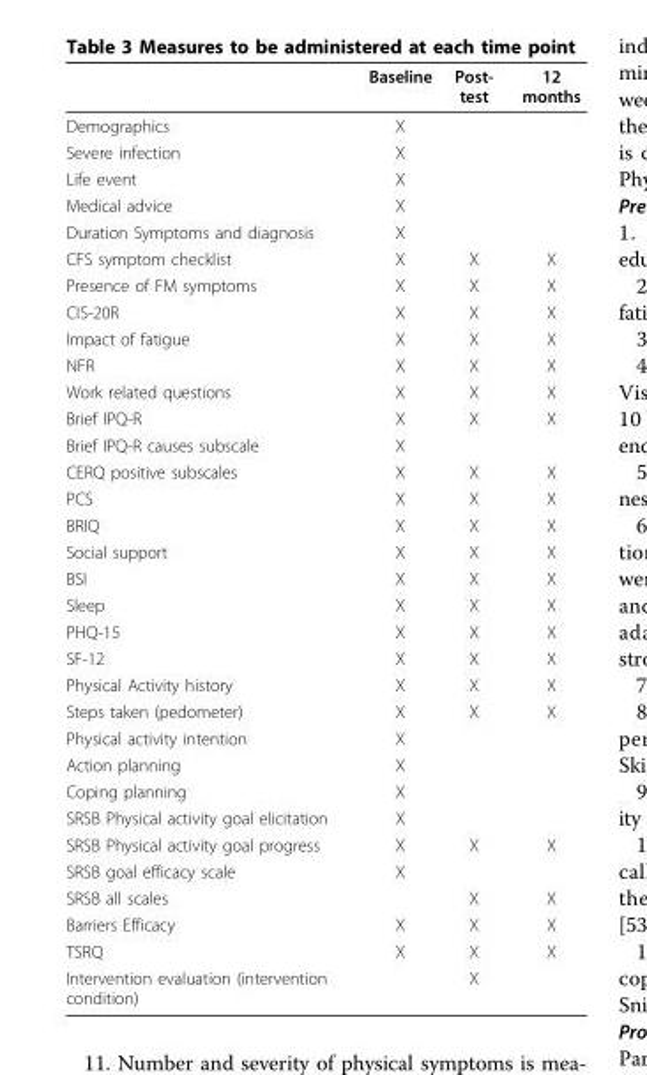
<table><thead><tr><td></td><td>Baseline</td><td>Post- test</td><td>12 months</td></tr></thead><tbody><tr><td>Demographics</td><td>X</td><td></td><td></td></tr><tr><td>Severe infection</td><td>X</td><td></td><td></td></tr><tr><td>Life event</td><td>X</td><td></td><td></td></tr><tr><td>Medical advice</td><td>X</td><td></td><td></td></tr><tr><td>Duration Symptoms and diagnosis</td><td>X</td><td></td><td></td></tr><tr><td>CFS symptom checklist</td><td>X</td><td>X</td><td>X</td></tr><tr><td>Presence of FM symptoms</td><td>X</td><td>X</td><td>X</td></tr><tr><td>CIS-20R</td><td>X</td><td>X</td><td>X</td></tr><tr><td>Impact of fatigue</td><td>X</td><td>X</td><td>X</td></tr><tr><td>NFR</td><td>X</td><td>X</td><td>X</td></tr><tr><td>Work related questions</td><td>X</td><td>X</td><td>X</td></tr><tr><td>Brief IPQ-R</td><td>X</td><td>X</td><td>X</td></tr><tr><td>Brief IPQ-R causes subscale</td><td>X</td><td></td><td></td></tr><tr><td>CERQ positive subscales</td><td>X</td><td>X</td><td>X</td></tr><tr><td>PCS</td><td>X</td><td>X</td><td>X</td></tr><tr><td>BRIQ</td><td>X</td><td>X</td><td>X</td></tr><tr><td>Social support</td><td>X</td><td>X</td><td>X</td></tr><tr><td>BSI</td><td>X</td><td>X</td><td>X</td></tr><tr><td>Sleep</td><td>X</td><td>X</td><td>X</td></tr><tr><td>PHQ-15</td><td>X</td><td>X</td><td>X</td></tr><tr><td>SF-12</td><td>X</td><td>X</td><td>X</td></tr><tr><td>Physical Activity history</td><td>X</td><td>X</td><td>X</td></tr><tr><td>Steps taken (pedometer)</td><td>X</td><td>X</td><td>X</td></tr><tr><td>Physical activity intention</td><td>X</td><td></td><td></td></tr><tr><td>Action planning</td><td>X</td><td></td><td></td></tr><tr><td>Coping planning</td><td>X</td><td></td><td></td></tr><tr><td>SRSB Physical activity goal elicitation</td><td>X</td><td></td><td></td></tr><tr><td>SRSB Physical activity goal progress</td><td>X</td><td>X</td><td>X</td></tr><tr><td>SRSB goal efficacy scale</td><td>X</td><td></td><td></td></tr><tr><td>SRSB all scales</td><td></td><td>X</td><td>X</td></tr><tr><td>Barriers Efficacy</td><td>X</td><td>X</td><td>X</td></tr><tr><td>TSRQ</td><td>X</td><td>X</td><td>X</td></tr><tr><td>Intervention evaluation (intervention condition)</td><td></td><td>X</td><td></td></tr></tbody></table>